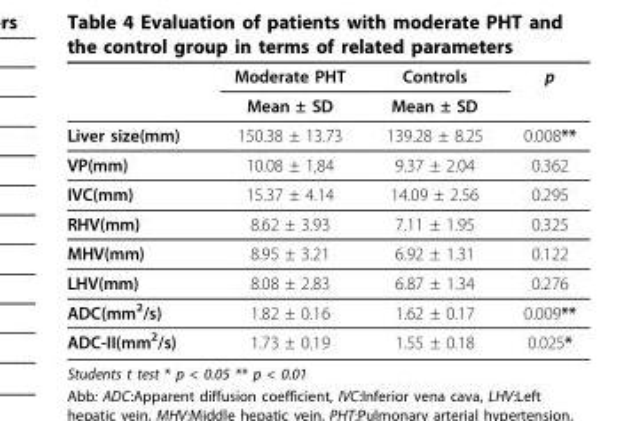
<table><thead><tr><td rowspan="2"></td><td rowspan="2">Moderate PHT Mean ± SD</td><td rowspan="2">Controls Mean ± SD</td><td rowspan="2">p</td></tr><tr></tr></thead><tbody><tr><td>Liver size(mm)</td><td>150.38 ± 13.73</td><td>139.28 ± 8.25</td><td>0.008**</td></tr><tr><td>VP(mm)</td><td>10.08 ± 1,84</td><td>9.37 ± 2.04</td><td>0.362</td></tr><tr><td>IVC(mm)</td><td>15.37 ± 4.14</td><td>14.09 ± 2.56</td><td>0.295</td></tr><tr><td>RHV(mm)</td><td>8.62 ± 3.93</td><td>7.11 ± 1.95</td><td>0.325</td></tr><tr><td>MHV(mm)</td><td>8.95 ± 3.21</td><td>6.92 ± 1.31</td><td>0.122</td></tr><tr><td>LHV(mm)</td><td>8.08 ± 2.83</td><td>6.87 ± 1.34</td><td>0.276</td></tr><tr><td>ADC(mm<sup>2</sup>/s)</td><td>1.82 ± 0.16</td><td>1.62 ± 0.17</td><td>0.009**</td></tr><tr><td>ADC-II(mm<sup>2</sup>/s)</td><td>1.73 ± 0.19</td><td>1.55 ± 0.18</td><td>0.025*</td></tr></tbody></table>